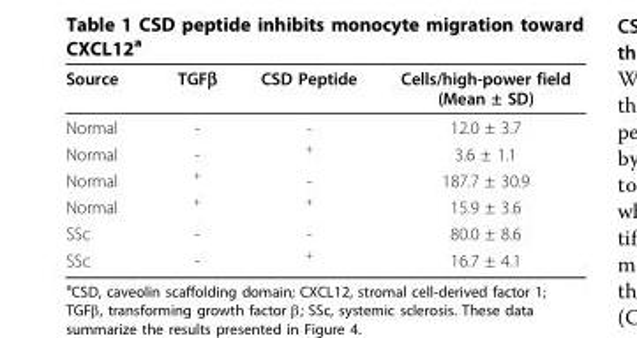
<table><thead><tr><td>Source</td><td>TGFβ</td><td>CSD Peptide</td><td>Cells/high-power field (Mean ± SD)</td></tr></thead><tbody><tr><td>Normal</td><td>-</td><td>-</td><td>12.0 ± 3.7</td></tr><tr><td>Normal</td><td>-</td><td><sup>+</sup></td><td>3.6 ± 1.1</td></tr><tr><td>Normal</td><td><sup>+</sup></td><td>-</td><td>187.7 ± 30.9</td></tr><tr><td>Normal</td><td><sup>+</sup></td><td><sup>+</sup></td><td>15.9 ± 3.6</td></tr><tr><td>SSc</td><td>-</td><td>-</td><td>80.0 ± 8.6</td></tr><tr><td>SSc</td><td>-</td><td><sup>+</sup></td><td>16.7 ± 4.1</td></tr></tbody></table>